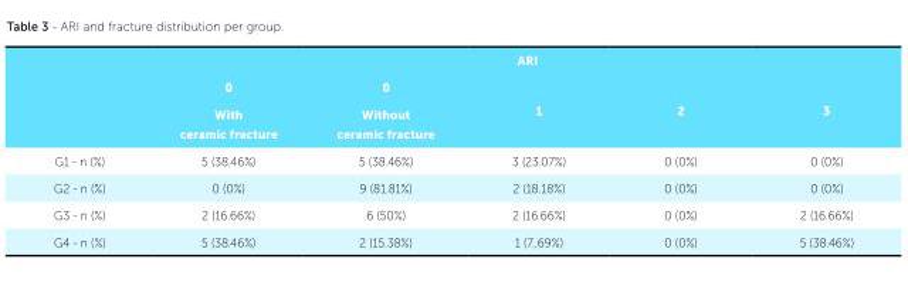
<table><thead><tr><td rowspan="3"></td><td colspan="5">ARI</td></tr><tr><td rowspan="2">0 With ceramic fracture</td><td rowspan="2">0 Without ceramic fracture</td><td rowspan="2">1</td><td rowspan="2">2</td><td rowspan="2">3</td></tr><tr></tr></thead><tbody><tr><td>G1 - n (%)</td><td>5 (38.46%)</td><td>5 (38.46%)</td><td>3 (23.07%)</td><td>0 (0%)</td><td>0 (0%)</td></tr><tr><td>G2 - n (%)</td><td>0 (0%)</td><td>9 (81.81%)</td><td>2 (18.18%)</td><td>0 (0%)</td><td>0 (0%)</td></tr><tr><td>G3 - n (%)</td><td>2 (16.66%)</td><td>6 (50%)</td><td>2 (16.66%)</td><td>0 (0%)</td><td>2 (16.66%)</td></tr><tr><td>G4 - n (%)</td><td>5 (38.46%)</td><td>2 (15.38%)</td><td>1 (7.,69%)</td><td>0 (0%)</td><td>5 (38.46%)</td></tr></tbody></table>